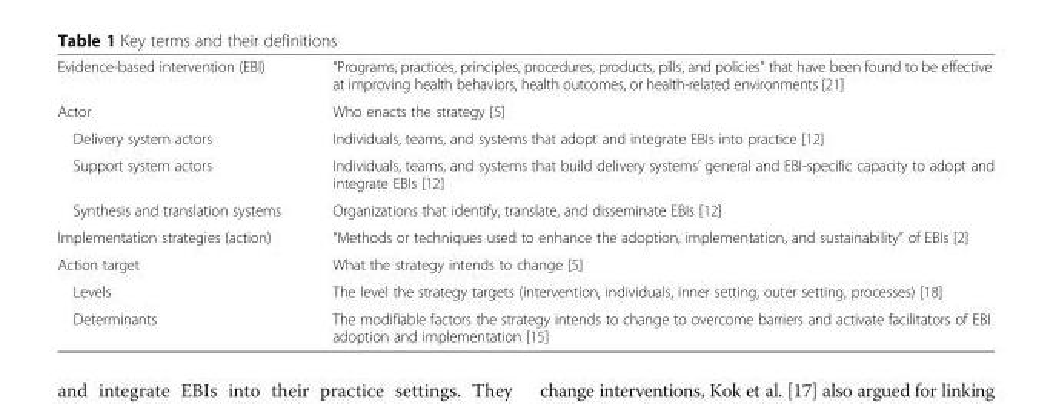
<table><tbody><tr><td>Evidence-based intervention (EBI)</td><td>“Programs, practices, principles, procedures, products, pills, and policies” that have been found to be effective at improving health behaviors, health outcomes, or health-related environments [21]</td></tr><tr><td>Actor</td><td>Who enacts the strategy [5]</td></tr><tr><td>Delivery system actors</td><td>Individuals, teams, and systems that adopt and integrate EBIs into practice [12]</td></tr><tr><td>Support system actors</td><td>Individuals, teams, and systems that build delivery systems’ general and EBI-specific capacity to adopt and integrate EBIs [12]</td></tr><tr><td>Synthesis and translation systems</td><td>Organizations that identify, translate, and disseminate EBIs [12]</td></tr><tr><td>Implementation strategies (action)</td><td>“Methods or techniques used to enhance the adoption, implementation, and sustainability” of EBIs [2]</td></tr><tr><td>Action target</td><td>What the strategy intends to change [5]</td></tr><tr><td>Levels</td><td>The level the strategy targets (intervention, individuals, inner setting, outer setting, processes) [18]</td></tr><tr><td>Determinants</td><td>The modifiable factors the strategy intends to change to overcome barriers and activate facilitators of EBI adoption and implementation [15]</td></tr></tbody></table>